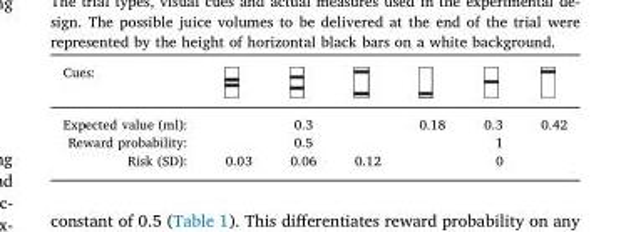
<table><thead><tr><td>Cues:</td><td></td><td></td><td></td><td></td><td></td><td></td></tr></thead><tbody><tr><td>Expected value (ml):</td><td colspan="3">0.3</td><td>0.18</td><td>0.3</td><td>0.42</td></tr><tr><td>Reward probability:</td><td colspan="3">0.5</td><td colspan="3">1</td></tr><tr><td>Risk (SD):</td><td>0.03</td><td>0.06</td><td>0.12</td><td colspan="3">0</td></tr></tbody></table>